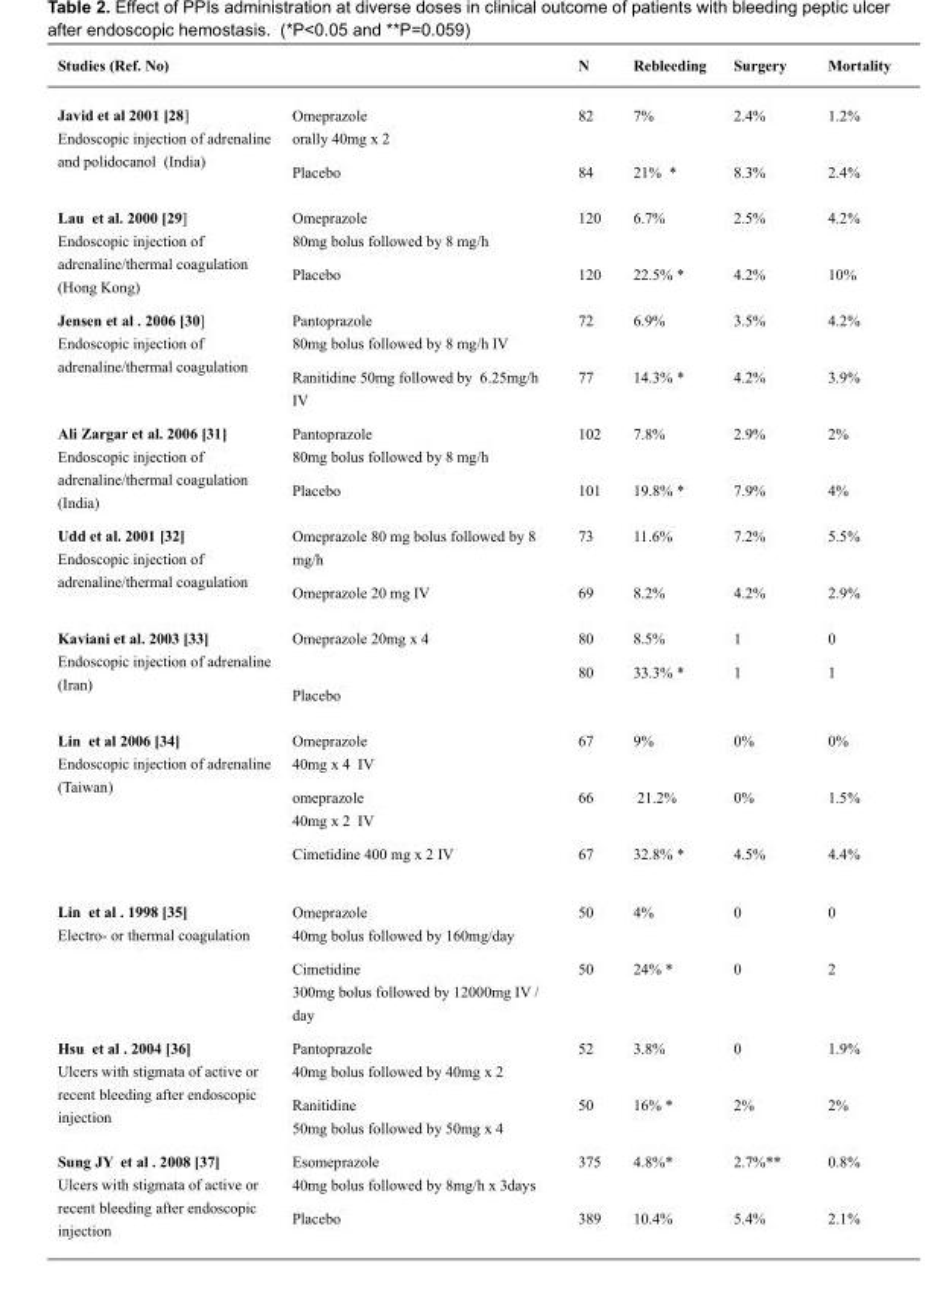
<table><thead><tr><td>Studies (Ref. No)</td><td></td><td>Ν</td><td>Rebleeding</td><td>Surgery</td><td>Mortality</td></tr></thead><tbody><tr><td rowspan="2">Javid et al 2001 [28] Endoscopic injection of adrenaline and polidocanol (India)</td><td>Omeprazole orally 40mg x 2</td><td>82</td><td>7%</td><td>2.4%</td><td>1.2%</td></tr><tr><td>Placebo</td><td>84</td><td>21% *</td><td>8.3%</td><td>2.4%</td></tr><tr><td rowspan="2">Lau et al. 2000 [29] Endoscopic injection of adrenaline/thermal coagulation (Hong Kong)</td><td>Omeprazole 80mg bolus followed by 8 mg/h</td><td>120</td><td>6.7%</td><td>2.5%</td><td>4.2%</td></tr><tr><td>Placebo</td><td>120</td><td>22.5% *</td><td>4.2%</td><td>10%</td></tr><tr><td rowspan="2">Jensen et al . 2006 [30] Endoscopic injection of adrenaline/thermal coagulation</td><td>Pantoprazole 80mg bolus followed by 8 mg/h IV</td><td>72</td><td>6.9%</td><td>3.5%</td><td>4.2%</td></tr><tr><td>Ranitidine 50mg followed by 6.25mg/h IV</td><td>77</td><td>14.3% *</td><td>4.2%</td><td>3.9%</td></tr><tr><td rowspan="2">Ali Zargar et al. 2006 [31] Endoscopic injection of adrenaline/thermal coagulation (India)</td><td>Pantoprazole 80mg bolus followed by 8 mg/h</td><td>102</td><td>7.8%</td><td>2.9%</td><td>2%</td></tr><tr><td>Placebo</td><td>101</td><td>19.8% *</td><td>7.9%</td><td>4%</td></tr><tr><td rowspan="2">Udd et al. 2001 [32] Endoscopic injection of adrenaline/thermal coagulation</td><td>Omeprazole 80 mg bolus followed by 8 mg/h</td><td>73</td><td>11.6%</td><td>7.2%</td><td>5.5%</td></tr><tr><td>Omeprazole 20 mg IV</td><td>69</td><td>8.2%</td><td>4.2%</td><td>2.9%</td></tr><tr><td rowspan="2">Kaviani et al. 2003 [33] Endoscopic injection of adrenaline (Iran)</td><td>Omeprazole 20mg x 4</td><td>80</td><td>8.5%</td><td>1</td><td>0</td></tr><tr><td>Placebo</td><td>80</td><td>33.3% *</td><td>1</td><td>1</td></tr><tr><td rowspan="3">Lin et al 2006 [34] Endoscopic injection of adrenaline (Taiwan)</td><td>Omeprazole 40mg x 4 IV</td><td>67</td><td>9%</td><td>0%</td><td>0%</td></tr><tr><td>omeprazole 40mg x 2 IV</td><td>66</td><td>21.2%</td><td>0%</td><td>1.5%</td></tr><tr><td>Cimetidine 400 mg x 2 IV</td><td>67</td><td>32.8% *</td><td>4.5%</td><td>4.4%</td></tr><tr><td rowspan="2">Lin et al . 1998 [35] Electro- or thermal coagulation</td><td>Οmeprazole 40mg bolus followed by 160mg/day</td><td>50</td><td>4%</td><td>0</td><td>0</td></tr><tr><td>Cimetidine 300mg bolus followed by 12000mg IV / day</td><td>50</td><td>24% *</td><td>0</td><td>2</td></tr><tr><td rowspan="2">Ηsu et al . 2004 [36] Ulcers with stigmata of active or recent bleeding after endoscopic injection</td><td>Pantoprazole 40mg bolus followed by 40mg χ 2</td><td>52</td><td>3.8%</td><td>0</td><td>1.9%</td></tr><tr><td>Ranitidine 50mg bolus followed by 50mg χ 4</td><td>50</td><td>16% *</td><td>2%</td><td>2%</td></tr><tr><td rowspan="2">Sung JY et al . 2008 [37] Ulcers with stigmata of active or recent bleeding after endoscopic injection</td><td>Esomeprazole 40mg bolus followed by 8mg/h x 3days</td><td>375</td><td>4.8%*</td><td>2.7%**</td><td>0.8%</td></tr><tr><td>Placebo</td><td>389</td><td>10.4%</td><td>5.4%</td><td>2.1%</td></tr></tbody></table>